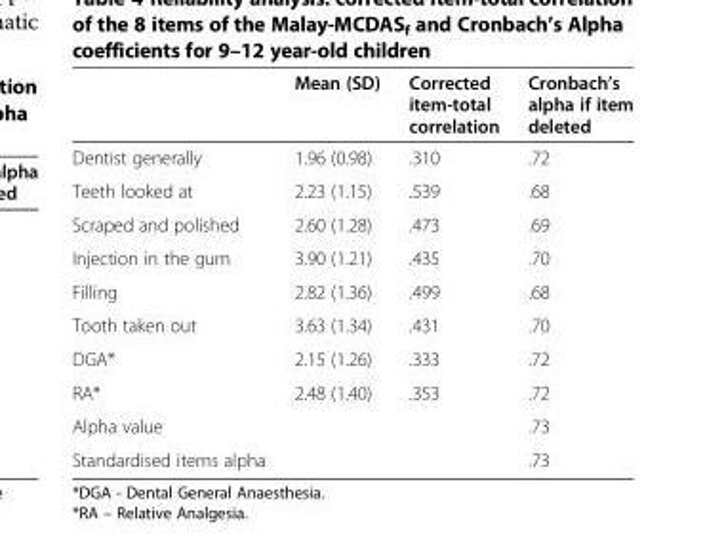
<table><thead><tr><td></td><td>Mean (SD)</td><td>Corrected item-total correlation</td><td>Cronbach’s alpha if item deleted</td></tr></thead><tbody><tr><td>Dentist generally</td><td>1.96 (0.98)</td><td>.310</td><td>.72</td></tr><tr><td>Teeth looked at</td><td>2.23 (1.15)</td><td>.539</td><td>.68</td></tr><tr><td>Scraped and polished</td><td>2.60 (1.28)</td><td>.473</td><td>.69</td></tr><tr><td>Injection in the gum</td><td>3.90 (1.21)</td><td>.435</td><td>.70</td></tr><tr><td>Filling</td><td>2.82 (1.36)</td><td>.499</td><td>.68</td></tr><tr><td>Tooth taken out</td><td>3.63 (1.34)</td><td>.431</td><td>.70</td></tr><tr><td>DGA*</td><td>2.15 (1.26)</td><td>.333</td><td>.72</td></tr><tr><td>RA*</td><td>2.48 (1.40)</td><td>.353</td><td>.72</td></tr><tr><td>Alpha value</td><td></td><td></td><td>.73</td></tr><tr><td>Standardised items alpha</td><td></td><td></td><td>.73</td></tr></tbody></table>